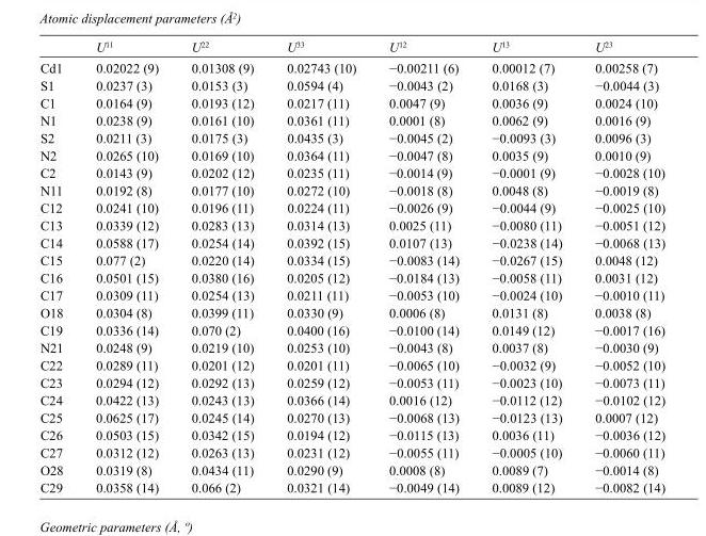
<table><thead><tr><td></td><td>U<sup>11</sup></td><td>U<sup>22</sup></td><td>U<sup>33</sup></td><td>U<sup>12</sup></td><td>U<sup>13</sup></td><td>U<sup>23</sup></td></tr></thead><tbody><tr><td>Cd1</td><td>0.02022 (9)</td><td>0.01308 (9)</td><td>0.02743 (10)</td><td>−0.00211 (6)</td><td>0.00012 (7)</td><td>0.00258 (7)</td></tr><tr><td>S1</td><td>0.0237 (3)</td><td>0.0153 (3)</td><td>0.0594 (4)</td><td>−0.0043 (2)</td><td>0.0168 (3)</td><td>−0.0044 (3)</td></tr><tr><td>C1</td><td>0.0164 (9)</td><td>0.0193 (12)</td><td>0.0217 (11)</td><td>0.0047 (9)</td><td>0.0036 (9)</td><td>0.0024 (10)</td></tr><tr><td>N1</td><td>0.0238 (9)</td><td>0.0161 (10)</td><td>0.0361 (11)</td><td>0.0001 (8)</td><td>0.0062 (9)</td><td>0.0016 (9)</td></tr><tr><td>S2</td><td>0.0211 (3)</td><td>0.0175 (3)</td><td>0.0435 (3)</td><td>−0.0045 (2)</td><td>−0.0093 (3)</td><td>0.0096 (3)</td></tr><tr><td>N2</td><td>0.0265 (10)</td><td>0.0169 (10)</td><td>0.0364 (11)</td><td>−0.0047 (8)</td><td>0.0035 (9)</td><td>0.0010 (9)</td></tr><tr><td>C2</td><td>0.0143 (9)</td><td>0.0202 (12)</td><td>0.0235 (11)</td><td>−0.0014 (9)</td><td>−0.0001 (9)</td><td>−0.0028 (10)</td></tr><tr><td>N11</td><td>0.0192 (8)</td><td>0.0177 (10)</td><td>0.0272 (10)</td><td>−0.0018 (8)</td><td>0.0048 (8)</td><td>−0.0019 (8)</td></tr><tr><td>C12</td><td>0.0241 (10)</td><td>0.0196 (11)</td><td>0.0224 (11)</td><td>−0.0026 (9)</td><td>−0.0044 (9)</td><td>−0.0025 (10)</td></tr><tr><td>C13</td><td>0.0339 (12)</td><td>0.0283 (13)</td><td>0.0314 (13)</td><td>0.0025 (11)</td><td>−0.0080 (11)</td><td>−0.0051 (12)</td></tr><tr><td>C14</td><td>0.0588 (17)</td><td>0.0254 (14)</td><td>0.0392 (15)</td><td>0.0107 (13)</td><td>−0.0238 (14)</td><td>−0.0068 (13)</td></tr><tr><td>C15</td><td>0.077 (2)</td><td>0.0220 (14)</td><td>0.0334 (15)</td><td>−0.0083 (14)</td><td>−0.0267 (15)</td><td>0.0048 (12)</td></tr><tr><td>C16</td><td>0.0501 (15)</td><td>0.0380 (16)</td><td>0.0205 (12)</td><td>−0.0184 (13)</td><td>−0.0058 (11)</td><td>0.0031 (12)</td></tr><tr><td>C17</td><td>0.0309 (11)</td><td>0.0254 (13)</td><td>0.0211 (11)</td><td>−0.0053 (10)</td><td>−0.0024 (10)</td><td>−0.0010 (11)</td></tr><tr><td>O18</td><td>0.0304 (8)</td><td>0.0399 (11)</td><td>0.0330 (9)</td><td>0.0006 (8)</td><td>0.0131 (8)</td><td>0.0038 (8)</td></tr><tr><td>C19</td><td>0.0336 (14)</td><td>0.070 (2)</td><td>0.0400 (16)</td><td>−0.0100 (14)</td><td>0.0149 (12)</td><td>−0.0017 (16)</td></tr><tr><td>N21</td><td>0.0248 (9)</td><td>0.0219 (10)</td><td>0.0253 (10)</td><td>−0.0043 (8)</td><td>0.0037 (8)</td><td>−0.0030 (9)</td></tr><tr><td>C22</td><td>0.0289 (11)</td><td>0.0201 (12)</td><td>0.0201 (11)</td><td>−0.0065 (10)</td><td>−0.0032 (9)</td><td>−0.0052 (10)</td></tr><tr><td>C23</td><td>0.0294 (12)</td><td>0.0292 (13)</td><td>0.0259 (12)</td><td>−0.0053 (11)</td><td>−0.0023 (10)</td><td>−0.0073 (11)</td></tr><tr><td>C24</td><td>0.0422 (13)</td><td>0.0243 (13)</td><td>0.0366 (14)</td><td>0.0016 (12)</td><td>−0.0112 (12)</td><td>−0.0102 (12)</td></tr><tr><td>C25</td><td>0.0625 (17)</td><td>0.0245 (14)</td><td>0.0270 (13)</td><td>−0.0068 (13)</td><td>−0.0123 (13)</td><td>0.0007 (12)</td></tr><tr><td>C26</td><td>0.0503 (15)</td><td>0.0342 (15)</td><td>0.0194 (12)</td><td>−0.0115 (13)</td><td>0.0036 (11)</td><td>−0.0036 (12)</td></tr><tr><td>C27</td><td>0.0312 (12)</td><td>0.0263 (13)</td><td>0.0231 (12)</td><td>−0.0055 (11)</td><td>−0.0005 (10)</td><td>−0.0060 (11)</td></tr><tr><td>O28</td><td>0.0319 (8)</td><td>0.0434 (11)</td><td>0.0290 (9)</td><td>0.0008 (8)</td><td>0.0089 (7)</td><td>−0.0014 (8)</td></tr><tr><td>C29</td><td>0.0358 (14)</td><td>0.066 (2)</td><td>0.0321 (14)</td><td>−0.0049 (14)</td><td>0.0089 (12)</td><td>−0.0082 (14)</td></tr></tbody></table>